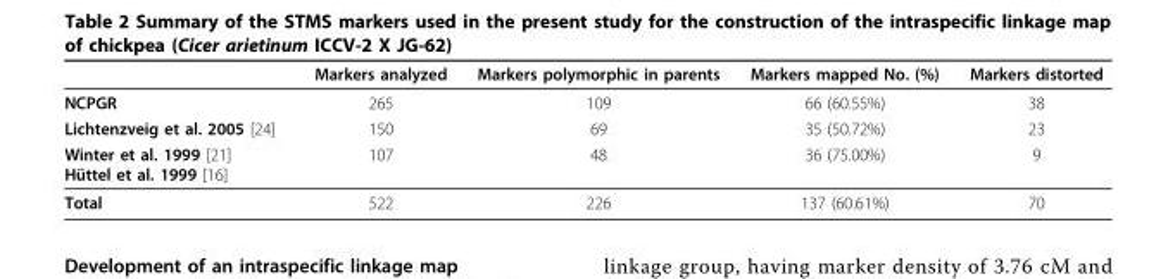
<table><thead><tr><td></td><td>Markers analyzed</td><td>Markers polymorphic in parents</td><td>Markers mapped No. (%)</td><td>Markers distorted</td></tr></thead><tbody><tr><td>NCPGR</td><td>265</td><td>109</td><td>66 (60.55%)</td><td>38</td></tr><tr><td>Lichtenzveig et al. 2005 [24]</td><td>150</td><td>69</td><td>35 (50.72%)</td><td>23</td></tr><tr><td>Winter et al. 1999 [21] Hüttel et al. 1999 [16]</td><td>107</td><td>48</td><td>36 (75.00%)</td><td>9</td></tr><tr><td>Total</td><td>522</td><td>226</td><td>137 (60.61%)</td><td>70</td></tr></tbody></table>